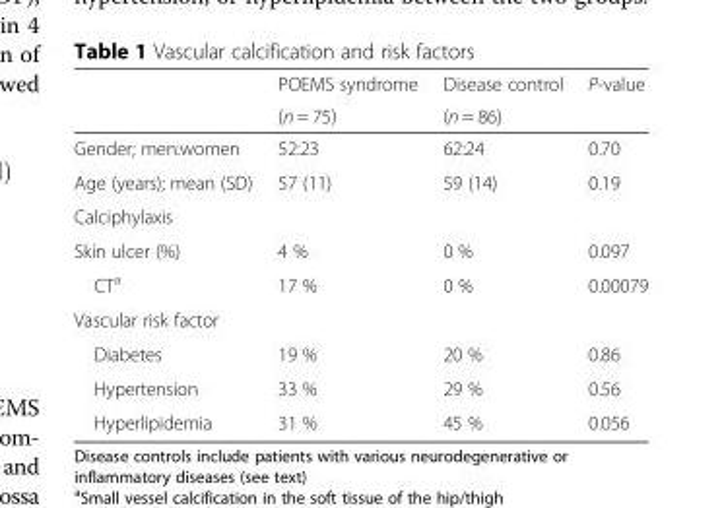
<table><thead><tr><td rowspan="2"></td><td rowspan="2">POEMS syndrome (n = 75)</td><td rowspan="2">Disease control (n = 86)</td><td rowspan="2">P-value</td></tr><tr></tr></thead><tbody><tr><td>Gender; men:women</td><td>52:23</td><td>62:24</td><td>0.70</td></tr><tr><td>Age (years); mean (SD)</td><td>57 (11)</td><td>59 (14)</td><td>0.19</td></tr><tr><td colspan="4">Calciphylaxis</td></tr><tr><td>Skin ulcer (%)</td><td>4 %</td><td>0 %</td><td>0.097</td></tr><tr><td>CT<sup>a</sup></td><td>17 %</td><td>0 %</td><td>0.00079</td></tr><tr><td colspan="4">Vascular risk factor</td></tr><tr><td>Diabetes</td><td>19 %</td><td>20 %</td><td>0.86</td></tr><tr><td>Hypertension</td><td>33 %</td><td>29 %</td><td>0.56</td></tr><tr><td>Hyperlipidemia</td><td>31 %</td><td>45 %</td><td>0.056</td></tr></tbody></table>